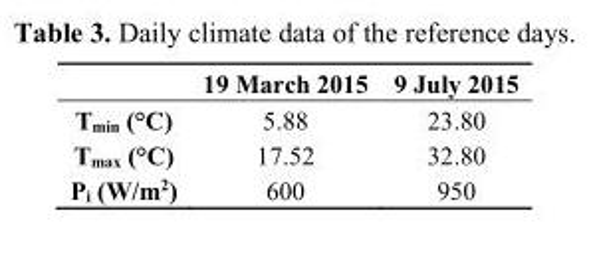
<table><thead><tr><td></td><td>19 March 2015</td><td>9 July 2015</td></tr></thead><tbody><tr><td>T<sub>min</sub> (°C)</td><td>5.88</td><td>23.80</td></tr><tr><td>T<sub>max</sub> (°C)</td><td>17.52</td><td>32.80</td></tr><tr><td>P<sub>i</sub> (W/m<sup>2</sup>)</td><td>600</td><td>950</td></tr></tbody></table>